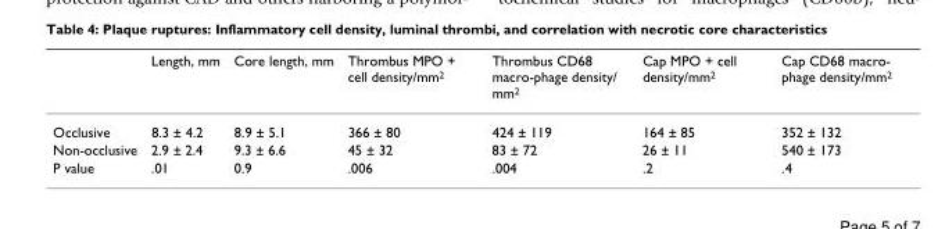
<table><thead><tr><td></td><td>Length, mm</td><td>Core length, mm</td><td>Thrombus MPO + cell density/mm<sup>2</sup></td><td>Thrombus CD68 macro-phage density/ mm<sup>2</sup></td><td>Cap MPO + cell density/mm<sup>2</sup></td><td>Cap CD68 macro- phage density/mm<sup>2</sup></td></tr></thead><tbody><tr><td>Occlusive</td><td>8.3 ± 4.2</td><td>8.9 ± 5.1</td><td>366 ± 80</td><td>424 ± 119</td><td>164 ± 85</td><td>352 ± 132</td></tr><tr><td>Non-occlusive</td><td>2.9 ± 2.4</td><td>9.3 ± 6.6</td><td>45 ± 32</td><td>83 ± 72</td><td>26 ± 11</td><td>540 ± 173</td></tr><tr><td>P value</td><td>.01</td><td>0.9</td><td>.006</td><td>.004</td><td>.2</td><td>.4</td></tr></tbody></table>